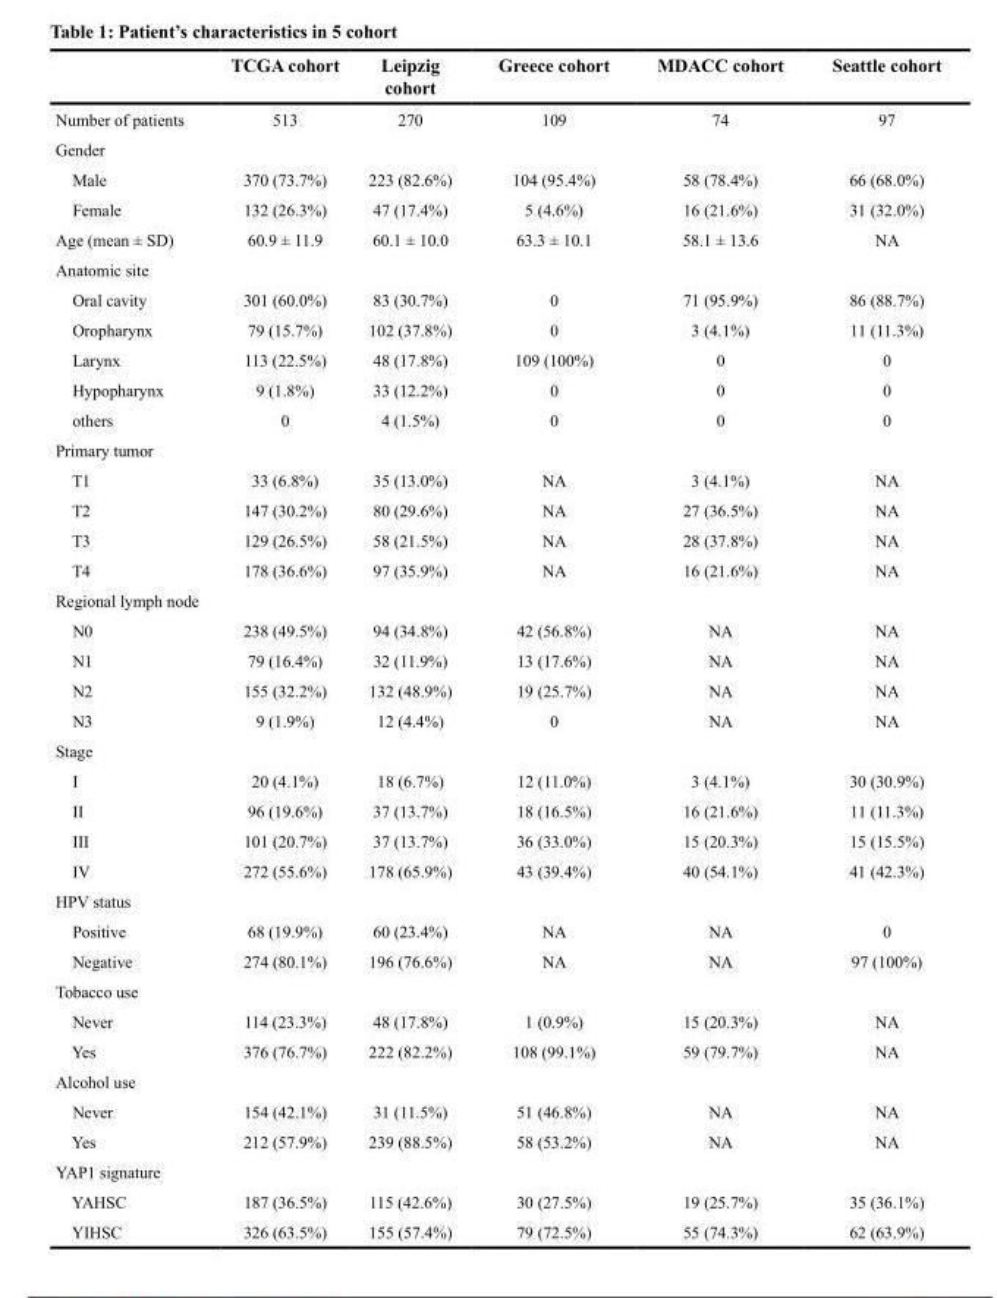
<table><thead><tr><td></td><td>TCGA cohort</td><td>Leipzig cohort</td><td>Greece cohort</td><td>MDACC cohort</td><td>Seattle cohort</td></tr></thead><tbody><tr><td>Number of patients</td><td>513</td><td>270</td><td>109</td><td>74</td><td>97</td></tr><tr><td colspan="6">Gender</td></tr><tr><td>Male</td><td>370 (73.7%)</td><td>223 (82.6%)</td><td>104 (95.4%)</td><td>58 (78.4%)</td><td>66 (68.0%)</td></tr><tr><td>Female</td><td>132 (26.3%)</td><td>47 (17.4%)</td><td>5 (4.6%)</td><td>16 (21.6%)</td><td>31 (32.0%)</td></tr><tr><td>Age (mean ± SD)</td><td>60.9 ± 11.9</td><td>60.1 ± 10.0</td><td>63.3 ± 10.1</td><td>58.1 ± 13.6</td><td>NA</td></tr><tr><td colspan="6">Anatomic site</td></tr><tr><td>Oral cavity</td><td>301 (60.0%)</td><td>83 (30.7%)</td><td>0</td><td>71 (95.9%)</td><td>86 (88.7%)</td></tr><tr><td>Oropharynx</td><td>79 (15.7%)</td><td>102 (37.8%)</td><td>0</td><td>3 (4.1%)</td><td>11 (11.3%)</td></tr><tr><td>Larynx</td><td>113 (22.5%)</td><td>48 (17.8%)</td><td>109 (100%)</td><td>0</td><td>0</td></tr><tr><td>Hypopharynx</td><td>9 (1.8%)</td><td>33 (12.2%)</td><td>0</td><td>0</td><td>0</td></tr><tr><td>others</td><td>0</td><td>4 (1.5%)</td><td>0</td><td>0</td><td>0</td></tr><tr><td colspan="6">Primary tumor</td></tr><tr><td>T1</td><td>33 (6.8%)</td><td>35 (13.0%)</td><td>NA</td><td>3 (4.1%)</td><td>NA</td></tr><tr><td>T2</td><td>147 (30.2%)</td><td>80 (29.6%)</td><td>NA</td><td>27 (36.5%)</td><td>NA</td></tr><tr><td>T3</td><td>129 (26.5%)</td><td>58 (21.5%)</td><td>NA</td><td>28 (37.8%)</td><td>NA</td></tr><tr><td>T4</td><td>178 (36.6%)</td><td>97 (35.9%)</td><td>NA</td><td>16 (21.6%)</td><td>NA</td></tr><tr><td colspan="6">Regional lymph node</td></tr><tr><td>N0</td><td>238 (49.5%)</td><td>94 (34.8%)</td><td>42 (56.8%)</td><td>NA</td><td>NA</td></tr><tr><td>N1</td><td>79 (16.4%)</td><td>32 (11.9%)</td><td>13 (17.6%)</td><td>NA</td><td>NA</td></tr><tr><td>N2</td><td>155 (32.2%)</td><td>132 (48.9%)</td><td>19 (25.7%)</td><td>NA</td><td>NA</td></tr><tr><td>N3</td><td>9 (1.9%)</td><td>12 (4.4%)</td><td>0</td><td>NA</td><td>NA</td></tr><tr><td colspan="6">Stage</td></tr><tr><td>I</td><td>20 (4.1%)</td><td>18 (6.7%)</td><td>12 (11.0%)</td><td>3 (4.1%)</td><td>30 (30.9%)</td></tr><tr><td>II</td><td>96 (19.6%)</td><td>37 (13.7%)</td><td>18 (16.5%)</td><td>16 (21.6%)</td><td>11 (11.3%)</td></tr><tr><td>III</td><td>101 (20.7%)</td><td>37 (13.7%)</td><td>36 (33.0%)</td><td>15 (20.3%)</td><td>15 (15.5%)</td></tr><tr><td>IV</td><td>272 (55.6%)</td><td>178 (65.9%)</td><td>43 (39.4%)</td><td>40 (54.1%)</td><td>41 (42.3%)</td></tr><tr><td colspan="6">HPV status</td></tr><tr><td>Positive</td><td>68 (19.9%)</td><td>60 (23.4%)</td><td>NA</td><td>NA</td><td>0</td></tr><tr><td>Negative</td><td>274 (80.1%)</td><td>196 (76.6%)</td><td>NA</td><td>NA</td><td>97 (100%)</td></tr><tr><td colspan="6">Tobacco use</td></tr><tr><td>Never</td><td>114 (23.3%)</td><td>48 (17.8%)</td><td>1 (0.9%)</td><td>15 (20.3%)</td><td>NA</td></tr><tr><td>Yes</td><td>376 (76.7%)</td><td>222 (82.2%)</td><td>108 (99.1%)</td><td>59 (79.7%)</td><td>NA</td></tr><tr><td colspan="6">Alcohol use</td></tr><tr><td>Never</td><td>154 (42.1%)</td><td>31 (11.5%)</td><td>51 (46.8%)</td><td>NA</td><td>NA</td></tr><tr><td>Yes</td><td>212 (57.9%)</td><td>239 (88.5%)</td><td>58 (53.2%)</td><td>NA</td><td>NA</td></tr><tr><td colspan="6">YAP1 signature</td></tr><tr><td>YAHSC</td><td>187 (36.5%)</td><td>115 (42.6%)</td><td>30 (27.5%)</td><td>19 (25.7%)</td><td>35 (36.1%)</td></tr><tr><td>YIHSC</td><td>326 (63.5%)</td><td>155 (57.4%)</td><td>79 (72.5%)</td><td>55 (74.3%)</td><td>62 (63.9%)</td></tr></tbody></table>